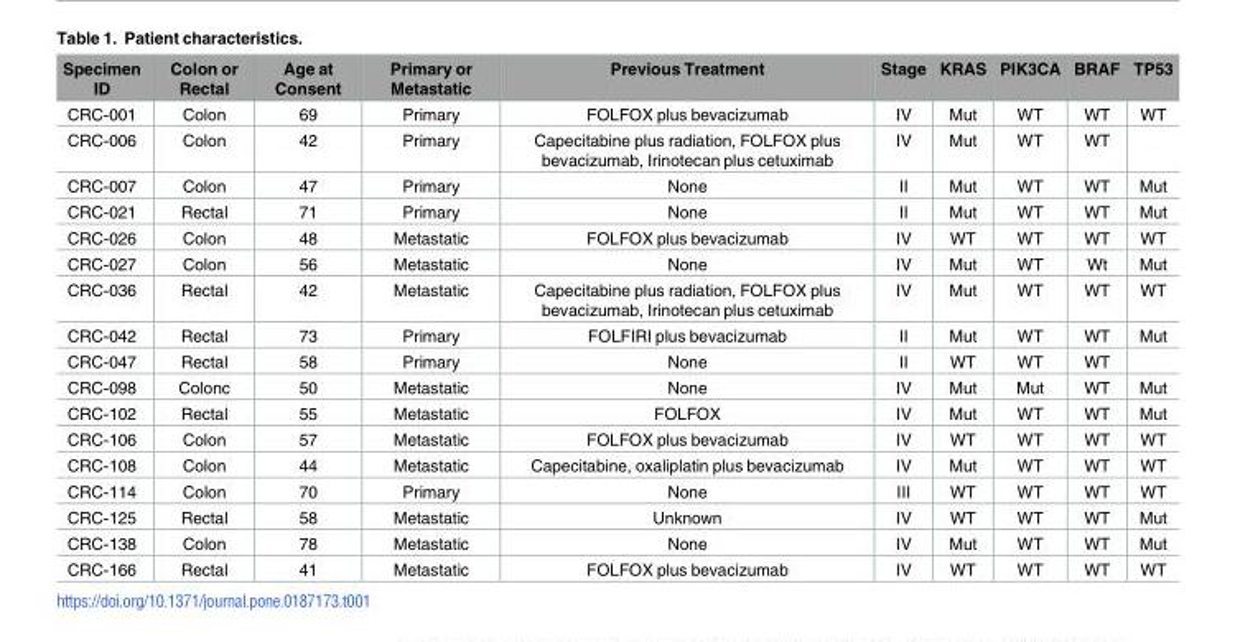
<table><thead><tr><td>Specimen ID</td><td>Colon or Rectal</td><td>Age at Consent</td><td>Primary or Metastatic</td><td>Previous Treatment</td><td>Stage</td><td>KRAS</td><td>PIK3CA</td><td>BRAF</td><td>TP53</td></tr></thead><tbody><tr><td>CRC-001</td><td>Colon</td><td>69</td><td>Primary</td><td>FOLFOX plus bevacizumab</td><td>IV</td><td>Mut</td><td>WT</td><td>WT</td><td>WT</td></tr><tr><td>CRC-006</td><td>Colon</td><td>42</td><td>Primary</td><td>Capecitabine plus radiation, FOLFOX plus bevacizumab, Irinotecan plus cetuximab</td><td>IV</td><td>Mut</td><td>WT</td><td>WT</td><td></td></tr><tr><td>CRC-007</td><td>Colon</td><td>47</td><td>Primary</td><td>None</td><td>II</td><td>Mut</td><td>WT</td><td>WT</td><td>Mut</td></tr><tr><td>CRC-021</td><td>Rectal</td><td>71</td><td>Primary</td><td>None</td><td>II</td><td>Mut</td><td>WT</td><td>WT</td><td>Mut</td></tr><tr><td>CRC-026</td><td>Colon</td><td>48</td><td>Metastatic</td><td>FOLFOX plus bevacizumab</td><td>IV</td><td>WT</td><td>WT</td><td>WT</td><td>WT</td></tr><tr><td>CRC-027</td><td>Colon</td><td>56</td><td>Metastatic</td><td>None</td><td>IV</td><td>Mut</td><td>WT</td><td>Wt</td><td>Mut</td></tr><tr><td>CRC-036</td><td>Rectal</td><td>42</td><td>Metastatic</td><td>Capecitabine plus radiation, FOLFOX plus bevacizumab, Irinotecan plus cetuximab</td><td>IV</td><td>Mut</td><td>WT</td><td>WT</td><td>WT</td></tr><tr><td>CRC-042</td><td>Rectal</td><td>73</td><td>Primary</td><td>FOLFIRI plus bevacizumab</td><td>II</td><td>Mut</td><td>WT</td><td>WT</td><td>Mut</td></tr><tr><td>CRC-047</td><td>Rectal</td><td>58</td><td>Primary</td><td>None</td><td>II</td><td>WT</td><td>WT</td><td>WT</td><td></td></tr><tr><td>CRC-098</td><td>Colonc</td><td>50</td><td>Metastatic</td><td>None</td><td>IV</td><td>Mut</td><td>Mut</td><td>WT</td><td>Mut</td></tr><tr><td>CRC-102</td><td>Rectal</td><td>55</td><td>Metastatic</td><td>FOLFOX</td><td>IV</td><td>Mut</td><td>WT</td><td>WT</td><td>Mut</td></tr><tr><td>CRC-106</td><td>Colon</td><td>57</td><td>Metastatic</td><td>FOLFOX plus bevacizumab</td><td>IV</td><td>WT</td><td>WT</td><td>WT</td><td>WT</td></tr><tr><td>CRC-108</td><td>Colon</td><td>44</td><td>Metastatic</td><td>Capecitabine, oxaliplatin plus bevacizumab</td><td>IV</td><td>Mut</td><td>WT</td><td>WT</td><td>WT</td></tr><tr><td>CRC-114</td><td>Colon</td><td>70</td><td>Primary</td><td>None</td><td>III</td><td>WT</td><td>WT</td><td>WT</td><td>WT</td></tr><tr><td>CRC-125</td><td>Rectal</td><td>58</td><td>Metastatic</td><td>Unknown</td><td>IV</td><td>WT</td><td>WT</td><td>WT</td><td>Mut</td></tr><tr><td>CRC-138</td><td>Colon</td><td>78</td><td>Metastatic</td><td>None</td><td>IV</td><td>Mut</td><td>WT</td><td>WT</td><td>Mut</td></tr><tr><td>CRC-166</td><td>Rectal</td><td>41</td><td>Metastatic</td><td>FOLFOX plus bevacizumab</td><td>IV</td><td>WT</td><td>WT</td><td>WT</td><td>WT</td></tr></tbody></table>